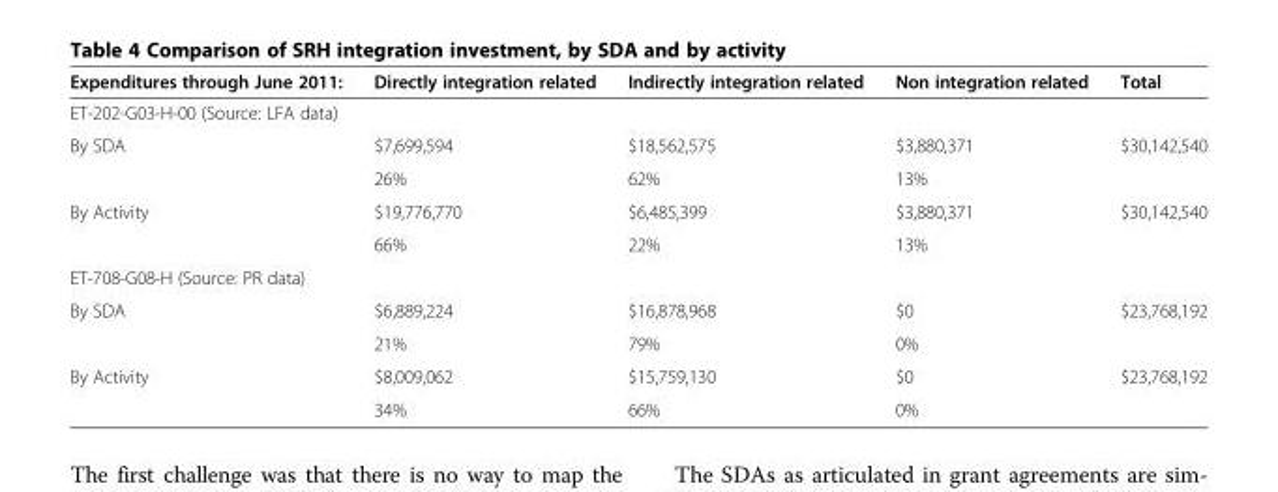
<table><thead><tr><td>Expenditures through June 2011:</td><td>Directly integration related</td><td>Indirectly integration related</td><td>Non integration related</td><td>Total</td></tr></thead><tbody><tr><td colspan="5">ET-202-G03-H-00 (Source: LFA data)</td></tr><tr><td rowspan="2">By SDA</td><td>$7,699,594</td><td>$18,562,575</td><td>$3,880,371</td><td rowspan="2">$30,142,540</td></tr><tr><td>26%</td><td>62%</td><td>13%</td></tr><tr><td rowspan="2">By Activity</td><td>$19,776,770</td><td>$6,485,399</td><td>$3,880,371</td><td rowspan="2">$30,142,540</td></tr><tr><td>66%</td><td>22%</td><td>13%</td></tr><tr><td colspan="5">ET-708-G08-H (Source: PR data)</td></tr><tr><td rowspan="2">By SDA</td><td>$6,889,224</td><td>$16,878,968</td><td>$0</td><td rowspan="2">$23,768,192</td></tr><tr><td>21%</td><td>79%</td><td>0%</td></tr><tr><td rowspan="2">By Activity</td><td>$8,009,062</td><td>$15,759,130</td><td>$0</td><td rowspan="2">$23,768,192</td></tr><tr><td>34%</td><td>66%</td><td>0%</td></tr></tbody></table>